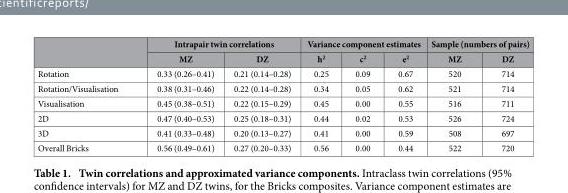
<table><thead><tr><td rowspan="2"></td><td colspan="2">Intrapair twin correlations</td><td colspan="3">Variance component estimates</td><td colspan="2">Sample (numbers of pairs)</td></tr><tr><td>MZ</td><td>DZ</td><td>h<sup>2</sup></td><td>c<sup>2</sup></td><td>e<sup>2</sup></td><td>MZ</td><td>DZ</td></tr></thead><tbody><tr><td>Rotation</td><td>0.33 (0.26–0.41)</td><td>0.21 (0.14–0.28)</td><td>0.25</td><td>0.09</td><td>0.67</td><td>520</td><td>714</td></tr><tr><td>Rotation/Visualisation</td><td>0.38 (0.31–0.46)</td><td>0.22 (0.14–0.28)</td><td>0.34</td><td>0.05</td><td>0.62</td><td>521</td><td>714</td></tr><tr><td>Visualisation</td><td>0.45 (0.38–0.51)</td><td>0.22 (0.15–0.29)</td><td>0.45</td><td>0.00</td><td>0.55</td><td>516</td><td>711</td></tr><tr><td>2D</td><td>0.47 (0.40–0.53)</td><td>0.25 (0.18–0.31)</td><td>0.44</td><td>0.02</td><td>0.53</td><td>526</td><td>724</td></tr><tr><td>3D</td><td>0.41 (0.33–0.48)</td><td>0.20 (0.13–0.27)</td><td>0.41</td><td>0.00</td><td>0.59</td><td>508</td><td>697</td></tr><tr><td>Overall Bricks</td><td>0.56 (0.49–0.61)</td><td>0.27 (0.20–0.33)</td><td>0.56</td><td>0.00</td><td>0.44</td><td>522</td><td>720</td></tr></tbody></table>